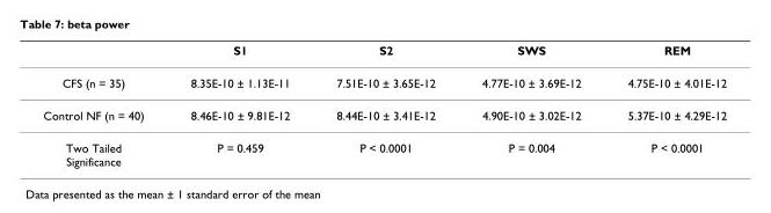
<table><thead><tr><td></td><td>S1</td><td>S2</td><td>SWS</td><td>REM</td></tr></thead><tbody><tr><td>CFS (n = 35)</td><td>8.35E-10 ± 1.13E-11</td><td>7.51E-10 ± 3.65E-12</td><td>4.77E-10 ± 3.69E-12</td><td>4.75E-10 ± 4.01E-12</td></tr><tr><td>Control NF (n = 40)</td><td>8.46E-10 ± 9.81E-12</td><td>8.44E-10 ± 3.41E-12</td><td>4.90E-10 ± 3.02E-12</td><td>5.37E-10 ± 4.29E-12</td></tr><tr><td>Two Tailed Significance</td><td>P = 0.459</td><td>P &lt; 0.0001</td><td>P = 0.004</td><td>P &lt; 0.0001</td></tr></tbody></table>